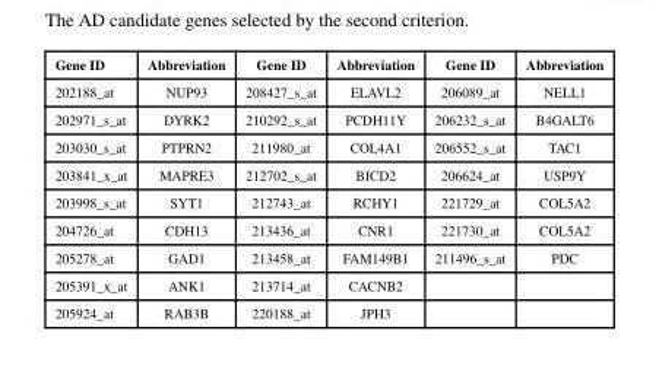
<table><thead><tr><td>Gene ID</td><td>Abbreviation</td><td>Gene ID</td><td>Abbreviation</td><td>Gene ID</td><td>Abbreviation</td></tr></thead><tbody><tr><td>202188_at</td><td>NUP93</td><td>208427_s_at</td><td>ELAVL2</td><td>206089_at</td><td>NELL1</td></tr><tr><td>202971_s_at</td><td>DYRK2</td><td>210292_s_at</td><td>PCDH11Y</td><td>206232_s_at</td><td>B4GALT6</td></tr><tr><td>203030_s_at</td><td>PTPRN2</td><td>211980_at</td><td>COL4A1</td><td>206552_s_at</td><td>TAC1</td></tr><tr><td>203841_x_at</td><td>MAPRE3</td><td>212702_s_at</td><td>BICD2</td><td>206624_at</td><td>USP9Y</td></tr><tr><td>203998_s_at</td><td>SYT1</td><td>212743_at</td><td>RCHY1</td><td>221729_at</td><td>COL5A2</td></tr><tr><td>204726_at</td><td>CDH13</td><td>213436_at</td><td>CNR1</td><td>221730_at</td><td>COL5A2</td></tr><tr><td>205278_at</td><td>GAD1</td><td>213458_at</td><td>FAM149B1</td><td>211496_s_at</td><td>PDC</td></tr><tr><td>205391_x_at</td><td>ANK1</td><td>213714_at</td><td>CACNB2</td><td></td><td></td></tr><tr><td>205924_at</td><td>RAB3B</td><td>220188_at</td><td>JPH3</td><td></td><td></td></tr></tbody></table>